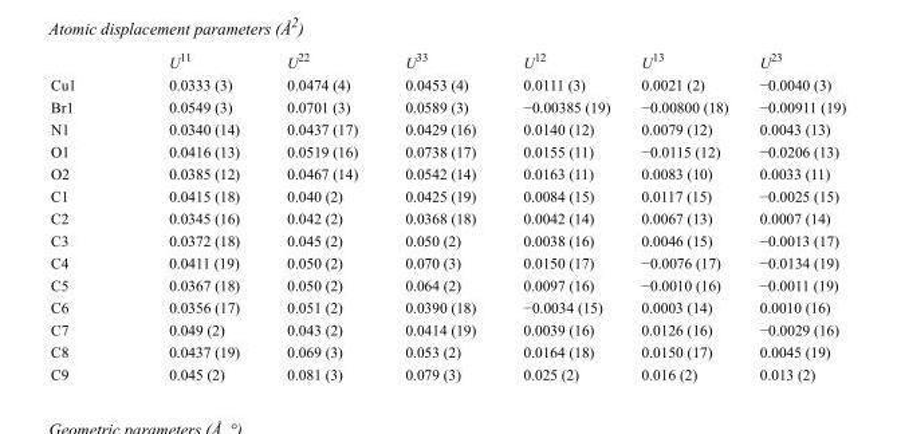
<table><thead><tr><td></td><td>U<sup>11</sup></td><td>U<sup>22</sup></td><td>U<sup>33</sup></td><td>U<sup>12</sup></td><td>U<sup>13</sup></td><td>U<sup>23</sup></td></tr></thead><tbody><tr><td>Cu1</td><td>0.0333 (3)</td><td>0.0474 (4)</td><td>0.0453 (4)</td><td>0.0111 (3)</td><td>0.0021 (2)</td><td>−0.0040 (3)</td></tr><tr><td>Br1</td><td>0.0549 (3)</td><td>0.0701 (3)</td><td>0.0589 (3)</td><td>−0.00385 (19)</td><td>−0.00800 (18)</td><td>−0.00911 (19)</td></tr><tr><td>N1</td><td>0.0340 (14)</td><td>0.0437 (17)</td><td>0.0429 (16)</td><td>0.0140 (12)</td><td>0.0079 (12)</td><td>0.0043 (13)</td></tr><tr><td>O1</td><td>0.0416 (13)</td><td>0.0519 (16)</td><td>0.0738 (17)</td><td>0.0155 (11)</td><td>−0.0115 (12)</td><td>−0.0206 (13)</td></tr><tr><td>O2</td><td>0.0385 (12)</td><td>0.0467 (14)</td><td>0.0542 (14)</td><td>0.0163 (11)</td><td>0.0083 (10)</td><td>0.0033 (11)</td></tr><tr><td>C1</td><td>0.0415 (18)</td><td>0.040 (2)</td><td>0.0425 (19)</td><td>0.0084 (15)</td><td>0.0117 (15)</td><td>−0.0025 (15)</td></tr><tr><td>C2</td><td>0.0345 (16)</td><td>0.042 (2)</td><td>0.0368 (18)</td><td>0.0042 (14)</td><td>0.0067 (13)</td><td>0.0007 (14)</td></tr><tr><td>C3</td><td>0.0372 (18)</td><td>0.045 (2)</td><td>0.050 (2)</td><td>0.0038 (16)</td><td>0.0046 (15)</td><td>−0.0013 (17)</td></tr><tr><td>C4</td><td>0.0411 (19)</td><td>0.050 (2)</td><td>0.070 (3)</td><td>0.0150 (17)</td><td>−0.0076 (17)</td><td>−0.0134 (19)</td></tr><tr><td>C5</td><td>0.0367 (18)</td><td>0.050 (2)</td><td>0.064 (2)</td><td>0.0097 (16)</td><td>−0.0010 (16)</td><td>−0.0011 (19)</td></tr><tr><td>C6</td><td>0.0356 (17)</td><td>0.051 (2)</td><td>0.0390 (18)</td><td>−0.0034 (15)</td><td>0.0003 (14)</td><td>0.0010 (16)</td></tr><tr><td>C7</td><td>0.049 (2)</td><td>0.043 (2)</td><td>0.0414 (19)</td><td>0.0039 (16)</td><td>0.0126 (16)</td><td>−0.0029 (16)</td></tr><tr><td>C8</td><td>0.0437 (19)</td><td>0.069 (3)</td><td>0.053 (2)</td><td>0.0164 (18)</td><td>0.0150 (17)</td><td>0.0045 (19)</td></tr><tr><td>C9</td><td>0.045 (2)</td><td>0.081 (3)</td><td>0.079 (3)</td><td>0.025 (2)</td><td>0.016 (2)</td><td>0.013 (2)</td></tr></tbody></table>